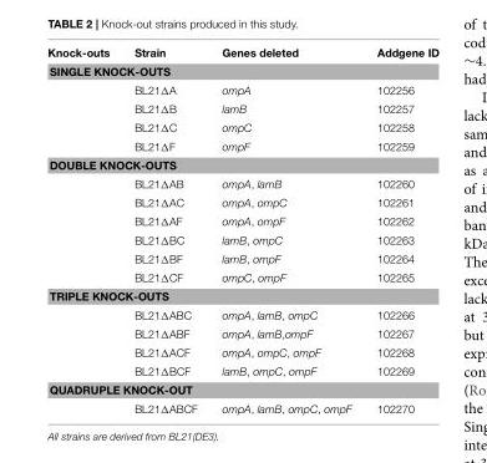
<table><thead><tr><td>Knock-outs</td><td>Strain</td><td>Genes deleted</td><td>Addgene ID</td></tr></thead><tbody><tr><td colspan="4">SINGLE KNOCK-OUTS</td></tr><tr><td></td><td>BL21ΔA</td><td>ompA</td><td>102256</td></tr><tr><td></td><td>BL21ΔB</td><td>lamB</td><td>102257</td></tr><tr><td></td><td>BL21ΔC</td><td>ompC</td><td>102258</td></tr><tr><td></td><td>BL21ΔF</td><td>ompF</td><td>102259</td></tr><tr><td colspan="4">DOUBLE KNOCK-OUTS</td></tr><tr><td></td><td>BL21ΔAB</td><td>ompA, lamB</td><td>102260</td></tr><tr><td></td><td>BL21ΔAC</td><td>ompA, ompC</td><td>102261</td></tr><tr><td></td><td>BL21ΔAF</td><td>ompA, ompF</td><td>102262</td></tr><tr><td></td><td>BL21ΔBC</td><td>lamB, ompC</td><td>102263</td></tr><tr><td></td><td>BL21ΔBF</td><td>lamB, ompF</td><td>102264</td></tr><tr><td></td><td>BL21ΔCF</td><td>ompC, ompF</td><td>102265</td></tr><tr><td colspan="4">TRIPLE KNOCK-OUTS</td></tr><tr><td></td><td>BL21ΔABC</td><td>ompA, lamB, ompC</td><td>102266</td></tr><tr><td></td><td>BL21ΔABF</td><td>ompA, lamB,ompF</td><td>102267</td></tr><tr><td></td><td>BL21ΔACF</td><td>ompA, ompC, ompF</td><td>102268</td></tr><tr><td></td><td>BL21ΔBCF</td><td>lamB, ompC, ompF</td><td>102269</td></tr><tr><td colspan="4">QUADRUPLE KNOCK-OUT</td></tr><tr><td></td><td>BL21ΔABCF</td><td>ompA, lamB, ompC, ompF</td><td>102270</td></tr></tbody></table>